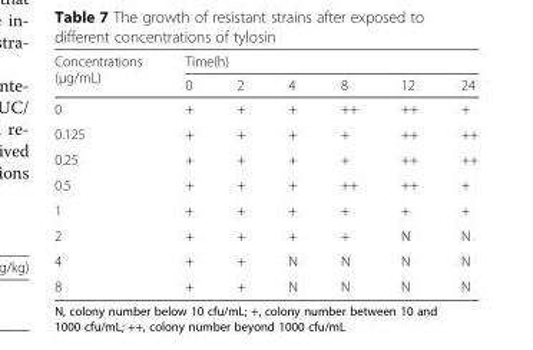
<table><thead><tr><td rowspan="2">Concentrations (μg/mL)</td><td colspan="6">Time(h)</td></tr><tr><td>0</td><td>2</td><td>4</td><td>8</td><td>12</td><td>24</td></tr></thead><tbody><tr><td>0</td><td>+</td><td>+</td><td>+</td><td>++</td><td>++</td><td>+</td></tr><tr><td>0.125</td><td>+</td><td>+</td><td>+</td><td>+</td><td>++</td><td>++</td></tr><tr><td>0.25</td><td>+</td><td>+</td><td>+</td><td>+</td><td>++</td><td>++</td></tr><tr><td>0.5</td><td>+</td><td>+</td><td>+</td><td>++</td><td>++</td><td>+</td></tr><tr><td>1</td><td>+</td><td>+</td><td>+</td><td>+</td><td>+</td><td>+</td></tr><tr><td>2</td><td>+</td><td>+</td><td>+</td><td>+</td><td>N</td><td>N</td></tr><tr><td>4</td><td>+</td><td>+</td><td>N</td><td>N</td><td>N</td><td>N</td></tr><tr><td>8</td><td>+</td><td>+</td><td>N</td><td>N</td><td>N</td><td>N</td></tr></tbody></table>